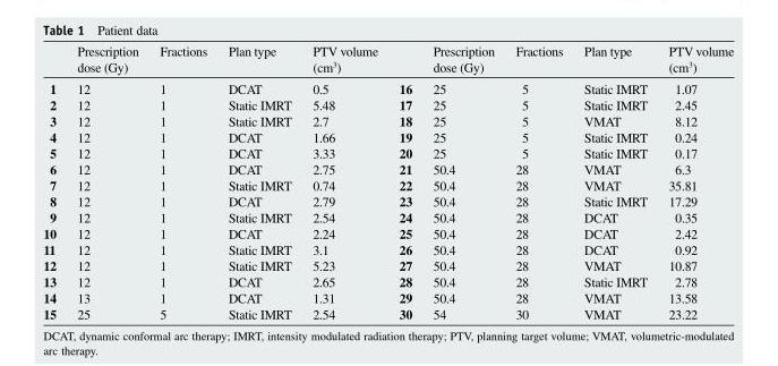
<table><thead><tr><td></td><td>Prescription dose (Gy)</td><td>Fractions</td><td>Plan type</td><td>PTV volume (cm<sup>3</sup>)</td><td></td><td>Prescription dose (Gy)</td><td>Fractions</td><td>Plan type</td><td>PTV volume (cm<sup>3</sup>)</td></tr></thead><tbody><tr><td>1</td><td>12</td><td>1</td><td>DCAT</td><td>0.5</td><td>16</td><td>25</td><td>5</td><td>Static IMRT</td><td>1.07</td></tr><tr><td>2</td><td>12</td><td>1</td><td>Static IMRT</td><td>5.48</td><td>17</td><td>25</td><td>5</td><td>Static IMRT</td><td>2.45</td></tr><tr><td>3</td><td>12</td><td>1</td><td>Static IMRT</td><td>2.7</td><td>18</td><td>25</td><td>5</td><td>VMAT</td><td>8.12</td></tr><tr><td>4</td><td>12</td><td>1</td><td>DCAT</td><td>1.66</td><td>19</td><td>25</td><td>5</td><td>Static IMRT</td><td>0.24</td></tr><tr><td>5</td><td>12</td><td>1</td><td>DCAT</td><td>3.33</td><td>20</td><td>25</td><td>5</td><td>Static IMRT</td><td>0.17</td></tr><tr><td>6</td><td>12</td><td>1</td><td>DCAT</td><td>2.75</td><td>21</td><td>50.4</td><td>28</td><td>VMAT</td><td>6.3</td></tr><tr><td>7</td><td>12</td><td>1</td><td>Static IMRT</td><td>0.74</td><td>22</td><td>50.4</td><td>28</td><td>VMAT</td><td>35.81</td></tr><tr><td>8</td><td>12</td><td>1</td><td>DCAT</td><td>2.79</td><td>23</td><td>50.4</td><td>28</td><td>Static IMRT</td><td>17.29</td></tr><tr><td>9</td><td>12</td><td>1</td><td>Static IMRT</td><td>2.54</td><td>24</td><td>50.4</td><td>28</td><td>DCAT</td><td>0.35</td></tr><tr><td>10</td><td>12</td><td>1</td><td>DCAT</td><td>2.24</td><td>25</td><td>50.4</td><td>28</td><td>DCAT</td><td>2.42</td></tr><tr><td>11</td><td>12</td><td>1</td><td>Static IMRT</td><td>3.1</td><td>26</td><td>50.4</td><td>28</td><td>DCAT</td><td>0.92</td></tr><tr><td>12</td><td>12</td><td>1</td><td>Static IMRT</td><td>5.23</td><td>27</td><td>50.4</td><td>28</td><td>VMAT</td><td>10.87</td></tr><tr><td>13</td><td>12</td><td>1</td><td>DCAT</td><td>2.65</td><td>28</td><td>50.4</td><td>28</td><td>Static IMRT</td><td>2.78</td></tr><tr><td>14</td><td>13</td><td>1</td><td>DCAT</td><td>1.31</td><td>29</td><td>50.4</td><td>28</td><td>VMAT</td><td>13.58</td></tr><tr><td>15</td><td>25</td><td>5</td><td>Static IMRT</td><td>2.54</td><td>30</td><td>54</td><td>30</td><td>VMAT</td><td>23.22</td></tr></tbody></table>